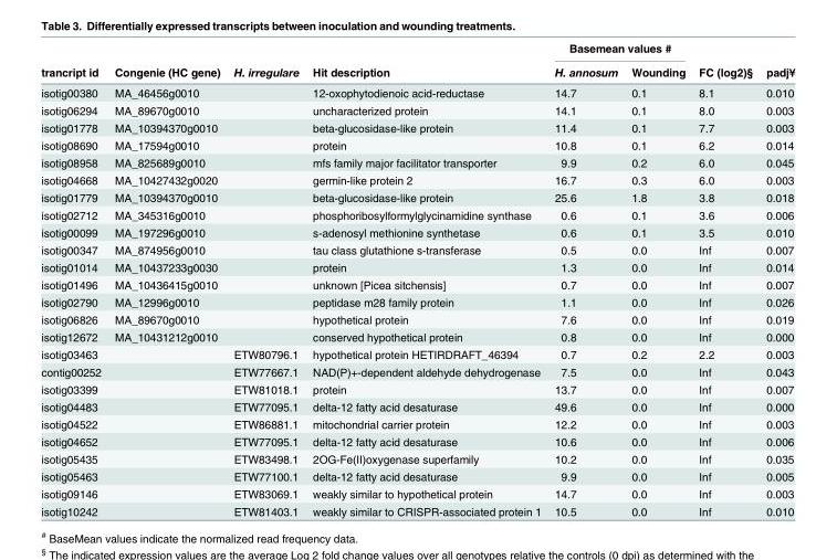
<table><thead><tr><td rowspan="2">trancript id</td><td rowspan="2">Congenie (HC gene)</td><td rowspan="2">H. irregulare</td><td rowspan="2">Hit description</td><td colspan="2">Basemean values #</td><td rowspan="2">FC (log2)§</td><td rowspan="2">padj¥</td></tr><tr><td>H. annosum</td><td>Wounding</td></tr></thead><tbody><tr><td>isotig00380</td><td>MA_46456g0010</td><td></td><td>12-oxophytodienoic acid-reductase</td><td>14.7</td><td>0.1</td><td>8.1</td><td>0.010</td></tr><tr><td>isotig06294</td><td>MA_89670g0010</td><td></td><td>uncharacterized protein</td><td>14.1</td><td>0.1</td><td>8.0</td><td>0.003</td></tr><tr><td>isotig01778</td><td>MA_10394370g0010</td><td></td><td>beta-glucosidase-like protein</td><td>11.4</td><td>0.1</td><td>7.7</td><td>0.003</td></tr><tr><td>isotig08690</td><td>MA_17594g0010</td><td></td><td>protein</td><td>10.8</td><td>0.1</td><td>6.2</td><td>0.014</td></tr><tr><td>isotig08958</td><td>MA_825689g0010</td><td></td><td>mfs family major facilitator transporter</td><td>9.9</td><td>0.2</td><td>6.0</td><td>0.045</td></tr><tr><td>isotig04668</td><td>MA_10427432g0020</td><td></td><td>germin-like protein 2</td><td>16.7</td><td>0.3</td><td>6.0</td><td>0.003</td></tr><tr><td>isotig01779</td><td>MA_10394370g0010</td><td></td><td>beta-glucosidase-like protein</td><td>25.6</td><td>1.8</td><td>3.8</td><td>0.018</td></tr><tr><td>isotig02712</td><td>MA_345316g0010</td><td></td><td>phosphoribosylformylglycinamidine synthase</td><td>0.6</td><td>0.1</td><td>3.6</td><td>0.006</td></tr><tr><td>isotig00099</td><td>MA_197296g0010</td><td></td><td>s-adenosyl methionine synthetase</td><td>0.6</td><td>0.1</td><td>3.5</td><td>0.010</td></tr><tr><td>isotig00347</td><td>MA_874956g0010</td><td></td><td>tau class glutathione s-transferase</td><td>0.5</td><td>0.0</td><td>Inf</td><td>0.007</td></tr><tr><td>isotig01014</td><td>MA_10437233g0030</td><td></td><td>protein</td><td>1.3</td><td>0.0</td><td>Inf</td><td>0.014</td></tr><tr><td>isotig01496</td><td>MA_10436415g0010</td><td></td><td>unknown [Picea sitchensis]</td><td>0.7</td><td>0.0</td><td>Inf</td><td>0.007</td></tr><tr><td>isotig02790</td><td>MA_12996g0010</td><td></td><td>peptidase m28 family protein</td><td>1.1</td><td>0.0</td><td>Inf</td><td>0.026</td></tr><tr><td>isotig06826</td><td>MA_89670g0010</td><td></td><td>hypothetical protein</td><td>7.6</td><td>0.0</td><td>Inf</td><td>0.019</td></tr><tr><td>isotig12672</td><td>MA_10431212g0010</td><td></td><td>conserved hypothetical protein</td><td>0.8</td><td>0.0</td><td>Inf</td><td>0.000</td></tr><tr><td>isotig03463</td><td></td><td>ETW80796.1</td><td>hypothetical protein HETIRDRAFT_46394</td><td>0.7</td><td>0.2</td><td>2.2</td><td>0.003</td></tr><tr><td>contig00252</td><td></td><td>ETW77667.1</td><td>NAD(P)+-dependent aldehyde dehydrogenase</td><td>7.5</td><td>0.0</td><td>Inf</td><td>0.043</td></tr><tr><td>isotig03399</td><td></td><td>ETW81018.1</td><td>protein</td><td>13.7</td><td>0.0</td><td>Inf</td><td>0.007</td></tr><tr><td>isotig04483</td><td></td><td>ETW77095.1</td><td>delta-12 fatty acid desaturase</td><td>49.6</td><td>0.0</td><td>Inf</td><td>0.000</td></tr><tr><td>isotig04522</td><td></td><td>ETW86881.1</td><td>mitochondrial carrier protein</td><td>12.2</td><td>0.0</td><td>Inf</td><td>0.003</td></tr><tr><td>isotig04652</td><td></td><td>ETW77095.1</td><td>delta-12 fatty acid desaturase</td><td>10.6</td><td>0.0</td><td>Inf</td><td>0.006</td></tr><tr><td>isotig05435</td><td></td><td>ETW83498.1</td><td>2OG-Fe(II)oxygenase superfamily</td><td>10.2</td><td>0.0</td><td>Inf</td><td>0.035</td></tr><tr><td>isotig05463</td><td></td><td>ETW77100.1</td><td>delta-12 fatty acid desaturase</td><td>9.9</td><td>0.0</td><td>Inf</td><td>0.005</td></tr><tr><td>isotig09146</td><td></td><td>ETW83069.1</td><td>weakly similar to hypothetical protein</td><td>14.7</td><td>0.0</td><td>Inf</td><td>0.003</td></tr><tr><td>isotig10242</td><td></td><td>ETW81403.1</td><td>weakly similar to CRISPR-associated protein 1</td><td>10.5</td><td>0.0</td><td>Inf</td><td>0.010</td></tr></tbody></table>